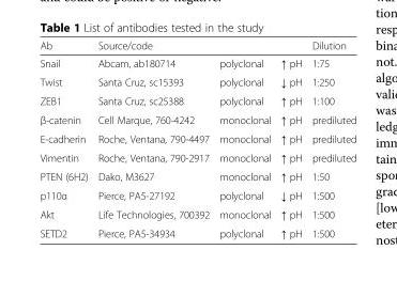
<table><thead><tr><td rowspan="2">Ab Snail</td><td colspan="3">Source/code</td><td rowspan="2">Dilution 1:75</td></tr><tr><td>Abcam, ab180714</td><td>polyclonal</td><td>↑ pH</td></tr></thead><tbody><tr><td>Twist</td><td>Santa Cruz, sc15393</td><td>polyclonal</td><td>↓ pH</td><td>1:250</td></tr><tr><td>ZEB1</td><td>Santa Cruz, sc25388</td><td>polyclonal</td><td>↑ pH</td><td>1:100</td></tr><tr><td>β-catenin</td><td>Cell Marque, 760-4242</td><td>monoclonal</td><td>↑ pH</td><td>prediluted</td></tr><tr><td>E-cadherin</td><td>Roche, Ventana, 790-4497</td><td>monoclonal</td><td>↑ pH</td><td>prediluted</td></tr><tr><td>Vimentin</td><td>Roche, Ventana, 790-2917</td><td>monoclonal</td><td>↑ pH</td><td>prediluted</td></tr><tr><td>PTEN (6H2)</td><td>Dako, M3627</td><td>monoclonal</td><td>↑ pH</td><td>1:50</td></tr><tr><td>p110α</td><td>Pierce, PA5-27192</td><td>polyclonal</td><td>↓ pH</td><td>1:500</td></tr><tr><td>Akt</td><td>Life Technologies, 700392</td><td>monoclonal</td><td>↑ pH</td><td>1:500</td></tr><tr><td>SETD2</td><td>Pierce, PA5-34934</td><td>polyclonal</td><td>↑ pH</td><td>1:500</td></tr></tbody></table>